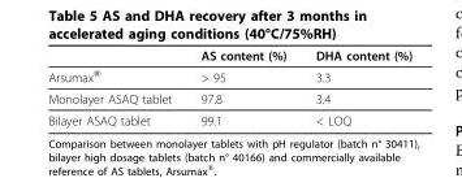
<table><thead><tr><td></td><td>AS content (%)</td><td>DHA content (%)</td></tr></thead><tbody><tr><td>Arsumax<sup>®</sup></td><td>&gt; 95</td><td>3.3</td></tr><tr><td>Monolayer ASAQ tablet</td><td>97.8</td><td>3.4</td></tr><tr><td>Bilayer ASAQ tablet</td><td>99.1</td><td>&lt; LOQ</td></tr></tbody></table>